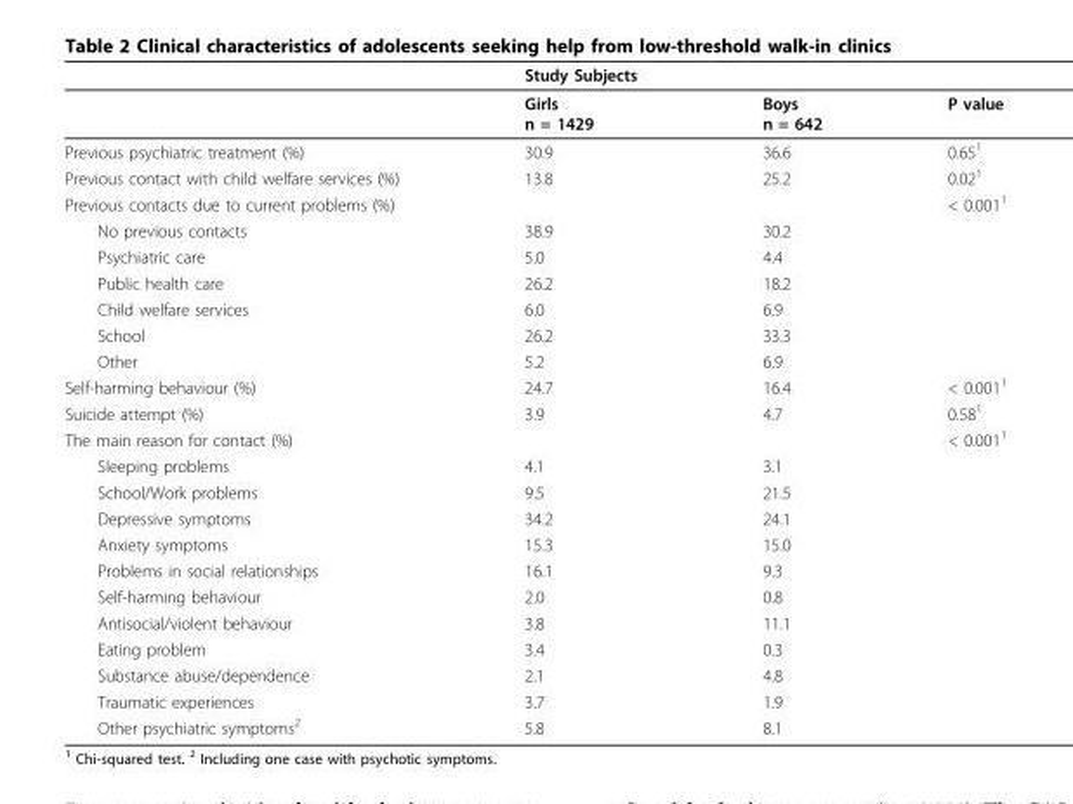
<table><thead><tr><td></td><td>Study Subjects</td><td></td><td></td></tr></thead><tbody><tr><td></td><td>Girls n = 1429</td><td>Boys n = 642</td><td>P value</td></tr><tr><td>Previous psychiatric treatment (%)</td><td>30.9</td><td>36.6</td><td>0.65<sup>1</sup></td></tr><tr><td>Previous contact with child welfare services (%)</td><td>13.8</td><td>25.2</td><td>0.02<sup>1</sup></td></tr><tr><td>Previous contacts due to current problems (%)</td><td></td><td></td><td>&lt; 0.001<sup>1</sup></td></tr><tr><td>No previous contacts</td><td>38.9</td><td>30.2</td><td></td></tr><tr><td>Psychiatric care</td><td>5.0</td><td>4.4</td><td></td></tr><tr><td>Public health care</td><td>26.2</td><td>18.2</td><td></td></tr><tr><td>Child welfare services</td><td>6.0</td><td>6.9</td><td></td></tr><tr><td>School</td><td>26.2</td><td>33.3</td><td></td></tr><tr><td>Other</td><td>5.2</td><td>6.9</td><td></td></tr><tr><td>Self-harming behaviour (%)</td><td>24.7</td><td>16.4</td><td>&lt; 0.001<sup>1</sup></td></tr><tr><td>Suicide attempt (%)</td><td>3.9</td><td>4.7</td><td>0.58<sup>1</sup></td></tr><tr><td>The main reason for contact (%)</td><td></td><td></td><td>&lt; 0.001<sup>1</sup></td></tr><tr><td>Sleeping problems</td><td>4.1</td><td>3.1</td><td></td></tr><tr><td>School/Work problems</td><td>9.5</td><td>21.5</td><td></td></tr><tr><td>Depressive symptoms</td><td>34.2</td><td>24.1</td><td></td></tr><tr><td>Anxiety symptoms</td><td>15.3</td><td>15.0</td><td></td></tr><tr><td>Problems in social relationships</td><td>16.1</td><td>9.3</td><td></td></tr><tr><td>Self-harming behaviour</td><td>2.0</td><td>0.8</td><td></td></tr><tr><td>Antisocial/violent behaviour</td><td>3.8</td><td>11.1</td><td></td></tr><tr><td>Eating problem</td><td>3.4</td><td>0.3</td><td></td></tr><tr><td>Substance abuse/dependence</td><td>2.1</td><td>4.8</td><td></td></tr><tr><td>Traumatic experiences</td><td>3.7</td><td>1.9</td><td></td></tr><tr><td>Other psychiatric symptoms<sup>2</sup></td><td>5.8</td><td>8.1</td><td></td></tr></tbody></table>